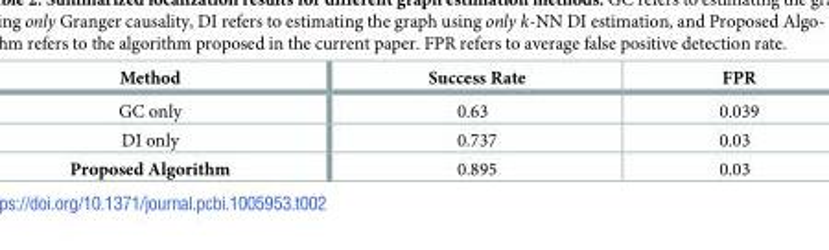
<table><thead><tr><td>Method</td><td>Success Rate</td><td>FPR</td></tr></thead><tbody><tr><td>GC only</td><td>0.63</td><td>0.039</td></tr><tr><td>DI only</td><td>0.737</td><td>0.03</td></tr><tr><td>Proposed Algorithm</td><td>0.895</td><td>0.03</td></tr></tbody></table>